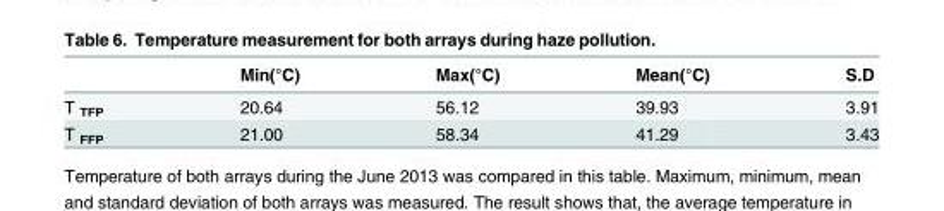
<table><thead><tr><td></td><td>Min(°C)</td><td>Max(°C)</td><td>Mean(°C)</td><td>S.D</td></tr></thead><tbody><tr><td>T <sub>TFP</sub></td><td>20.64</td><td>56.12</td><td>39.93</td><td>3.91</td></tr><tr><td>T <sub>FFP</sub></td><td>21.00</td><td>58.34</td><td>41.29</td><td>3.43</td></tr></tbody></table>